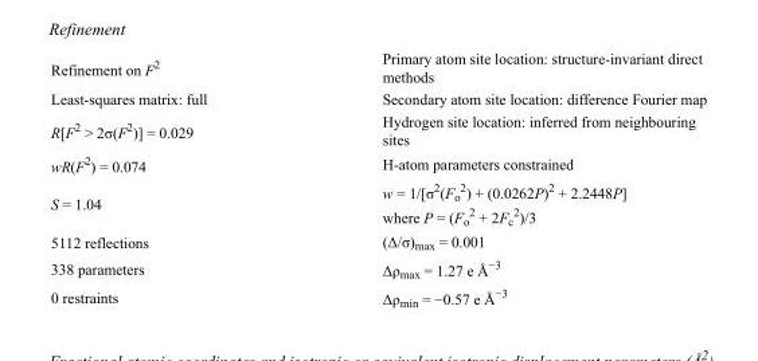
<table><tbody><tr><td>Refinement on F<sup>2</sup></td><td>Primary atom site location: structure-invariant direct methods</td></tr><tr><td>Least-squares matrix: full</td><td>Secondary atom site location: difference Fourier map</td></tr><tr><td>R[F<sup>2</sup> &gt; 2σ(F<sup>2</sup>)] = 0.029</td><td>Hydrogen site location: inferred from neighbouring sites</td></tr><tr><td>wR(F<sup>2</sup>) = 0.074</td><td>H-atom parameters constrained</td></tr><tr><td>S = 1.04</td><td>w = 1/[σ<sup>2</sup>(F<sub>o</sub> <sup>2</sup>) + (0.0262P)<sup>2</sup> + 2.2448P] where P = (F<sub>o</sub> <sup>2</sup> + 2F<sub>c</sub> <sup>2</sup>)/3</td></tr><tr><td>5112 reflections</td><td>(Δ/σ)<sub>max</sub> = 0.001</td></tr><tr><td>338 parameters</td><td>Δρ<sub>max</sub> = 1.27 e Å<sup>−3</sup></td></tr><tr><td>0 restraints</td><td>Δρ<sub>min</sub> = −0.57 e Å<sup>−3</sup></td></tr></tbody></table>